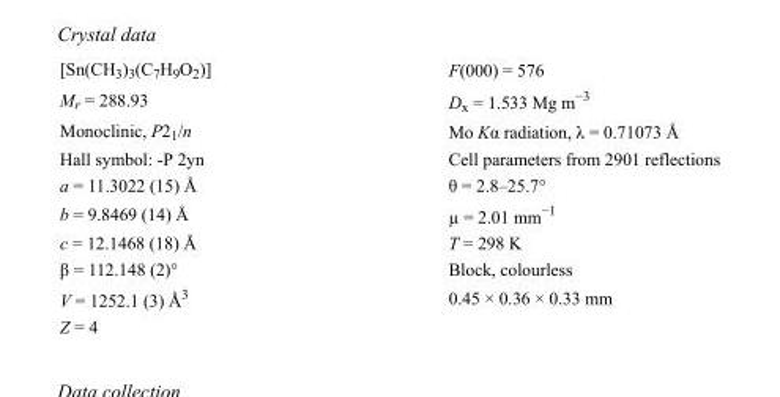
<table><tbody><tr><td>[Sn(CH<sub>3</sub>)<sub>3</sub>(C<sub>7</sub>H<sub>9</sub>O<sub>2</sub>)]</td><td>F(000) = 576</td></tr><tr><td>M<sub>r</sub> = 288.93</td><td>D<sub>x</sub> = 1.533 Mg m<sup>−3</sup></td></tr><tr><td>Monoclinic, P2<sub>1</sub>/n</td><td>Mo Kα radiation, λ = 0.71073 Å</td></tr><tr><td>Hall symbol: -P 2yn</td><td>Cell parameters from 2901 reflections</td></tr><tr><td>a = 11.3022 (15) Å</td><td>θ = 2.8–25.7°</td></tr><tr><td>b = 9.8469 (14) Å</td><td>µ = 2.01 mm<sup>−1</sup></td></tr><tr><td>c = 12.1468 (18) Å</td><td>T = 298 K</td></tr><tr><td>β = 112.148 (2)°</td><td>Block, colourless</td></tr><tr><td>V = 1252.1 (3) Å<sup>3</sup></td><td>0.45 × 0.36 × 0.33 mm</td></tr><tr><td>Z = 4</td><td></td></tr></tbody></table>